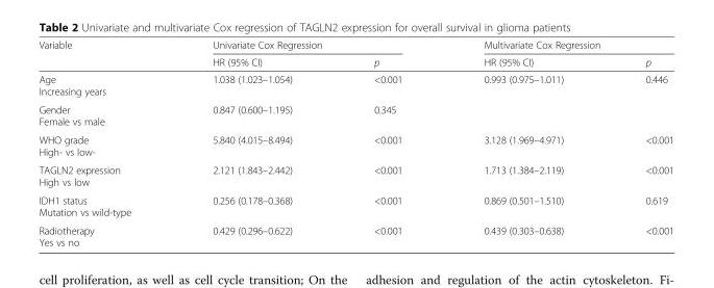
<table><thead><tr><td rowspan="2">Variable</td><td colspan="2">Univariate Cox Regression</td><td colspan="2">Multivariate Cox Regression</td></tr><tr><td>HR (95% CI)</td><td>p</td><td>HR (95% CI)</td><td>p</td></tr></thead><tbody><tr><td>Age Increasing years</td><td>1.038 (1.023–1.054)</td><td>&lt;0.001</td><td>0.993 (0.975–1.011)</td><td>0.446</td></tr><tr><td>Gender Female vs male</td><td>0.847 (0.600–1.195)</td><td>0.345</td><td></td><td></td></tr><tr><td>WHO grade High- vs low-</td><td>5.840 (4.015–8.494)</td><td>&lt;0.001</td><td>3.128 (1.969–4.971)</td><td>&lt;0.001</td></tr><tr><td>TAGLN2 expression High vs low</td><td>2.121 (1.843–2.442)</td><td>&lt;0.001</td><td>1.713 (1.384–2.119)</td><td>&lt;0.001</td></tr><tr><td>IDH1 status Mutation vs wild-type</td><td>0.256 (0.178–0.368)</td><td>&lt;0.001</td><td>0.869 (0.501–1.510)</td><td>0.619</td></tr><tr><td>Radiotherapy Yes vs no</td><td>0.429 (0.296–0.622)</td><td>&lt;0.001</td><td>0.439 (0.303–0.638)</td><td>&lt;0.001</td></tr></tbody></table>